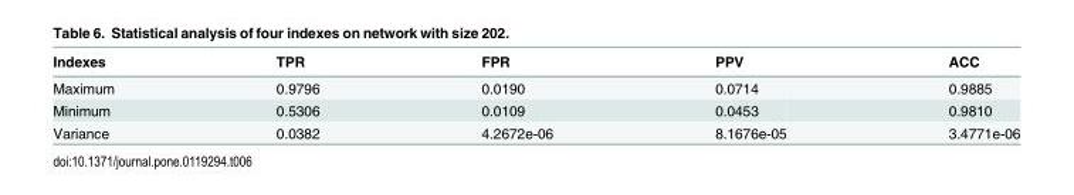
<table><thead><tr><td>Indexes</td><td>TPR</td><td>FPR</td><td>PPV</td><td>ACC</td></tr></thead><tbody><tr><td>Maximum</td><td>0.9796</td><td>0.0190</td><td>0.0714</td><td>0.9885</td></tr><tr><td>Minimum</td><td>0.5306</td><td>0.0109</td><td>0.0453</td><td>0.9810</td></tr><tr><td>Variance</td><td>0.0382</td><td>4.2672e-06</td><td>8.1676e-05</td><td>3.4771e-06</td></tr></tbody></table>